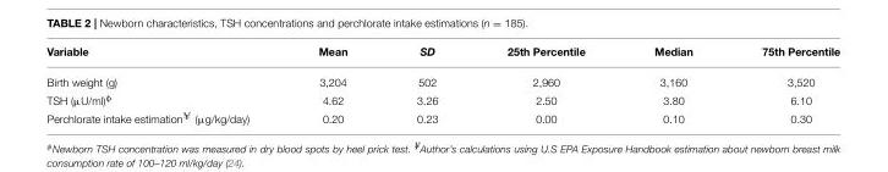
<table><thead><tr><td>Variable</td><td>Mean</td><td>SD</td><td>25th Percentile</td><td>Median</td><td>75th Percentile</td></tr></thead><tbody><tr><td>Birth weight (g)</td><td>3,204</td><td>502</td><td>2,960</td><td>3,160</td><td>3,520</td></tr><tr><td>TSH (µU/ml)<sup>φ</sup></td><td>4.62</td><td>3.26</td><td>2.50</td><td>3.80</td><td>6.10</td></tr><tr><td>Perchlorate intake estimation<sup>¥</sup> (µg/kg/day)</td><td>0.20</td><td>0.23</td><td>0.00</td><td>0.10</td><td>0.30</td></tr></tbody></table>